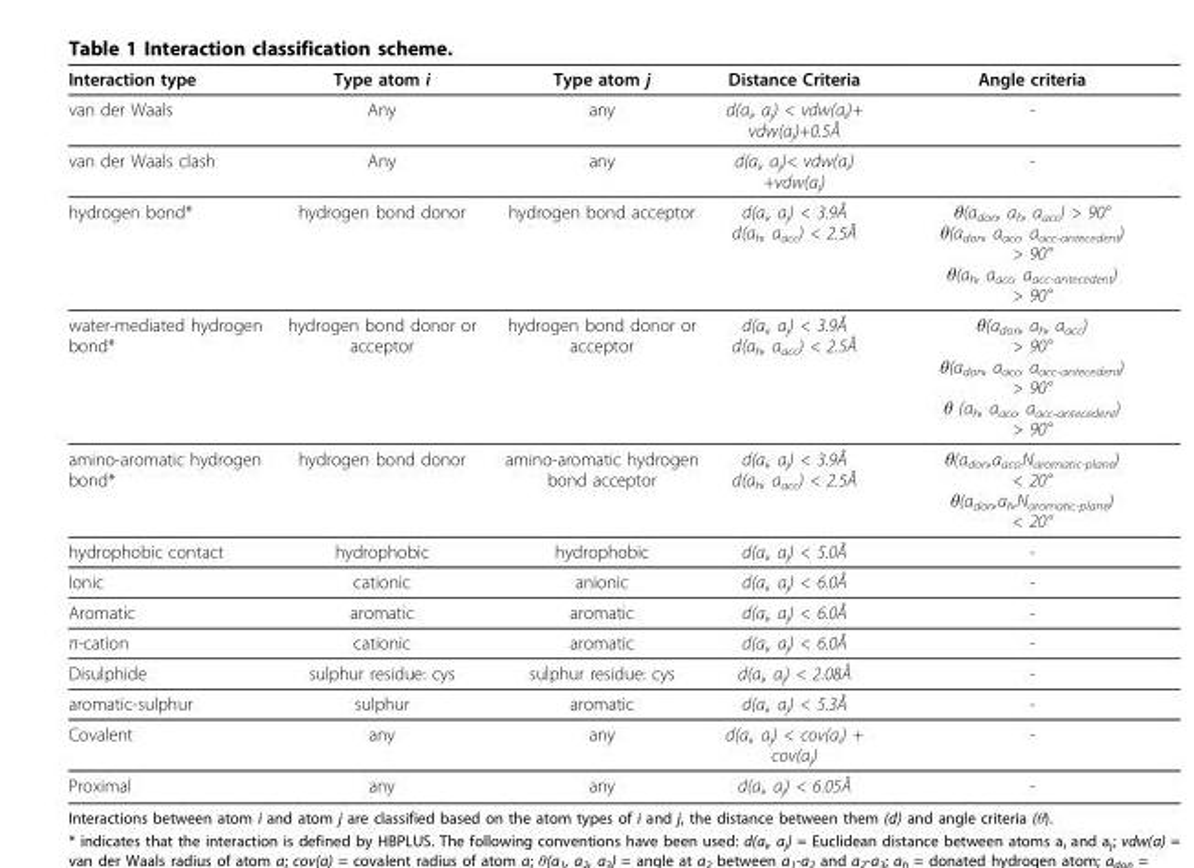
<table><thead><tr><td>Interaction type</td><td>Type atom i</td><td>Type atom j</td><td>Distance Criteria</td><td>Angle criteria</td></tr></thead><tbody><tr><td>van der Waals</td><td>Any</td><td>any</td><td>d(a<sub>i</sub>, a<sub>j</sub>) &lt; vdw(a<sub>i</sub>)+ vdw(a<sub>j</sub>)+0.5Å</td><td>-</td></tr><tr><td>van der Waals clash</td><td>Any</td><td>any</td><td>d(a<sub>i</sub>, a<sub>j</sub>)&lt; vdw(a<sub>i</sub>) +vdw(a<sub>j</sub>)</td><td>-</td></tr><tr><td>hydrogen bond*</td><td>hydrogen bond donor</td><td>hydrogen bond acceptor</td><td>d(a<sub>i</sub>, a<sub>j</sub>) &lt; 3.9Å d(a<sub>h</sub>, a<sub>acc</sub>) &lt; 2.5Å</td><td>θ(a<sub>don</sub>, a<sub>h</sub>, a<sub>acc</sub>) &gt; 90° θ(a<sub>don</sub>, a<sub>acc</sub>, a<sub>acc-antecedent</sub>) &gt; 90° θ(a<sub>h</sub>, a<sub>acc</sub>, a<sub>acc-antecedent</sub>) &gt; 90°</td></tr><tr><td>water-mediated hydrogen bond*</td><td>hydrogen bond donor or acceptor</td><td>hydrogen bond donor or acceptor</td><td>d(a<sub>i</sub>, a<sub>j</sub>) &lt; 3.9Å d(a<sub>h</sub>, a<sub>acc</sub>) &lt; 2.5Å</td><td>θ(a<sub>don</sub>, a<sub>h</sub>, a<sub>acc</sub>) &gt; 90° θ(a<sub>don</sub>, a<sub>acc</sub>, a<sub>acc-antecedent</sub>) &gt; 90° θ (a<sub>h</sub>, a<sub>acc</sub>, a<sub>acc-antecedent</sub>) &gt; 90°</td></tr><tr><td>amino-aromatic hydrogen bond*</td><td>hydrogen bond donor</td><td>amino-aromatic hydrogen bond acceptor</td><td>d(a<sub>i</sub>, a<sub>j</sub>) &lt; 3.9Å d(a<sub>h</sub>, a<sub>acc</sub>) &lt; 2.5Å</td><td>θ(a<sub>don</sub>,a<sub>acc</sub>,N<sub>aromatic-plane</sub>) &lt; 20° θ(a<sub>don</sub>,a<sub>h</sub>,N<sub>aromatic-plane</sub>) &lt; 20°</td></tr><tr><td>hydrophobic contact</td><td>hydrophobic</td><td>hydrophobic</td><td>d(a<sub>i</sub>, a<sub>j</sub>) &lt; 5.0Å</td><td>-</td></tr><tr><td>Ionic</td><td>cationic</td><td>anionic</td><td>d(a<sub>i</sub>, a<sub>j</sub>) &lt; 6.0Å</td><td>-</td></tr><tr><td>Aromatic</td><td>aromatic</td><td>aromatic</td><td>d(a<sub>i</sub>, a<sub>j</sub>) &lt; 6.0Å</td><td>-</td></tr><tr><td>π-cation</td><td>cationic</td><td>aromatic</td><td>d(a<sub>i</sub>, a<sub>j</sub>) &lt; 6.0Å</td><td>-</td></tr><tr><td>Disulphide</td><td>sulphur residue: cys</td><td>sulphur residue: cys</td><td>d(a<sub>i</sub>, a<sub>j</sub>) &lt; 2.08Å</td><td>-</td></tr><tr><td>aromatic-sulphur</td><td>sulphur</td><td>aromatic</td><td>d(a<sub>i</sub>, a<sub>j</sub>) &lt; 5.3Å</td><td>-</td></tr><tr><td>Covalent</td><td>any</td><td>any</td><td>d(a<sub>i</sub>, a<sub>j</sub>) &lt; cov(a<sub>i</sub>) + cov(a<sub>j</sub>)</td><td>-</td></tr><tr><td>Proximal</td><td>any</td><td>any</td><td>d(a<sub>i</sub>, a<sub>j</sub>) &lt; 6.05Å</td><td>-</td></tr></tbody></table>